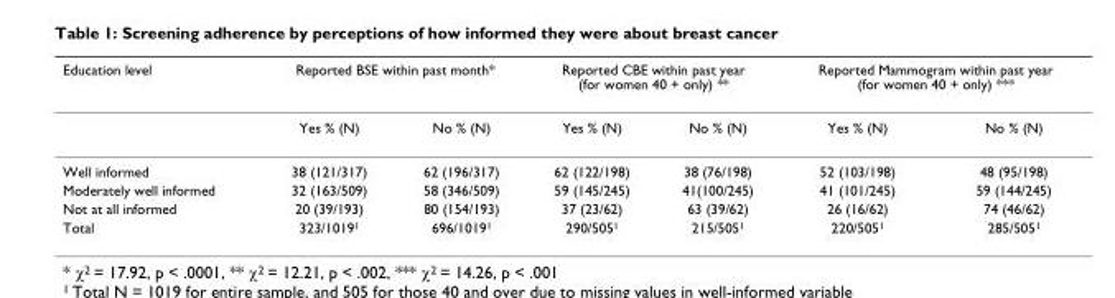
<table><thead><tr><td rowspan="2">Education level</td><td colspan="2">Reported BSE within past month*</td><td colspan="2">Reported CBE within past year (for women 40 + only) **</td><td colspan="2">Reported Mammogram within past year (for women 40 + only) ***</td></tr><tr><td>Yes % (N)</td><td>No % (N)</td><td>Yes % (N)</td><td>No % (N)</td><td>Yes % (N)</td><td>No % (N)</td></tr></thead><tbody><tr><td>Well informed</td><td>38 (121/317)</td><td>62 (196/317)</td><td>62 (122/198)</td><td>38 (76/198)</td><td>52 (103/198)</td><td>48 (95/198)</td></tr><tr><td>Moderately well informed</td><td>32 (163/509)</td><td>58 (346/509)</td><td>59 (145/245)</td><td>41(100/245)</td><td>41 (101/245)</td><td>59 (144/245)</td></tr><tr><td>Not at all informed</td><td>20 (39/193)</td><td>80 (154/193)</td><td>37 (23/62)</td><td>63 (39/62)</td><td>26 (16/62)</td><td>74 (46/62)</td></tr><tr><td>Total</td><td>323/1019<sup>1</sup></td><td>696/1019<sup>1</sup></td><td>290/505<sup>1</sup></td><td>215/505<sup>1</sup></td><td>220/505<sup>1</sup></td><td>285/505<sup>1</sup></td></tr></tbody></table>